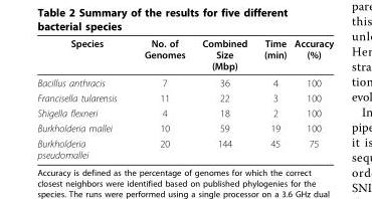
<table><thead><tr><td>Species</td><td>No. of Genomes</td><td>Combined Size (Mbp)</td><td>Time (min)</td><td>Accuracy (%)</td></tr></thead><tbody><tr><td>Bacillus anthracis</td><td>7</td><td>36</td><td>4</td><td>100</td></tr><tr><td>Francisella tularensis</td><td>11</td><td>22</td><td>3</td><td>100</td></tr><tr><td>Shigella flexneri</td><td>4</td><td>18</td><td>2</td><td>100</td></tr><tr><td>Burkholderia mallei</td><td>10</td><td>59</td><td>19</td><td>100</td></tr><tr><td>Burkholderia pseudomallei</td><td>20</td><td>144</td><td>45</td><td>75</td></tr></tbody></table>